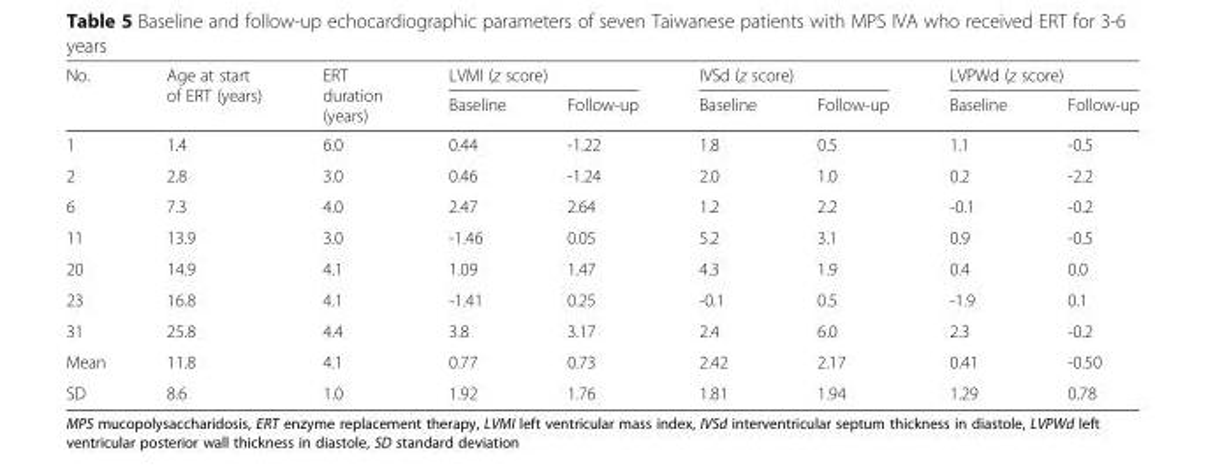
<table><thead><tr><td rowspan="2">No.</td><td rowspan="2">Age at start of ERT (years)</td><td rowspan="2">ERT duration (years)</td><td colspan="2">LVMI (z score)</td><td colspan="2">IVSd (z score)</td><td colspan="2">LVPWd (z score)</td></tr><tr><td>Baseline</td><td>Follow-up</td><td>Baseline</td><td>Follow-up</td><td>Baseline</td><td>Follow-up</td></tr></thead><tbody><tr><td>1</td><td>1.4</td><td>6.0</td><td>0.44</td><td>-1.22</td><td>1.8</td><td>0.5</td><td>1.1</td><td>-0.5</td></tr><tr><td>2</td><td>2.8</td><td>3.0</td><td>0.46</td><td>-1.24</td><td>2.0</td><td>1.0</td><td>0.2</td><td>-2.2</td></tr><tr><td>6</td><td>7.3</td><td>4.0</td><td>2.47</td><td>2.64</td><td>1.2</td><td>2.2</td><td>-0.1</td><td>-0.2</td></tr><tr><td>11</td><td>13.9</td><td>3.0</td><td>-1.46</td><td>0.05</td><td>5.2</td><td>3.1</td><td>0.9</td><td>-0.5</td></tr><tr><td>20</td><td>14.9</td><td>4.1</td><td>1.09</td><td>1.47</td><td>4.3</td><td>1.9</td><td>0.4</td><td>0.0</td></tr><tr><td>23</td><td>16.8</td><td>4.1</td><td>-1.41</td><td>0.25</td><td>-0.1</td><td>0.5</td><td>-1.9</td><td>0.1</td></tr><tr><td>31</td><td>25.8</td><td>4.4</td><td>3.8</td><td>3.17</td><td>2.4</td><td>6.0</td><td>2.3</td><td>-0.2</td></tr><tr><td>Mean</td><td>11.8</td><td>4.1</td><td>0.77</td><td>0.73</td><td>2.42</td><td>2.17</td><td>0.41</td><td>-0.50</td></tr><tr><td>SD</td><td>8.6</td><td>1.0</td><td>1.92</td><td>1.76</td><td>1.81</td><td>1.94</td><td>1.29</td><td>0.78</td></tr></tbody></table>